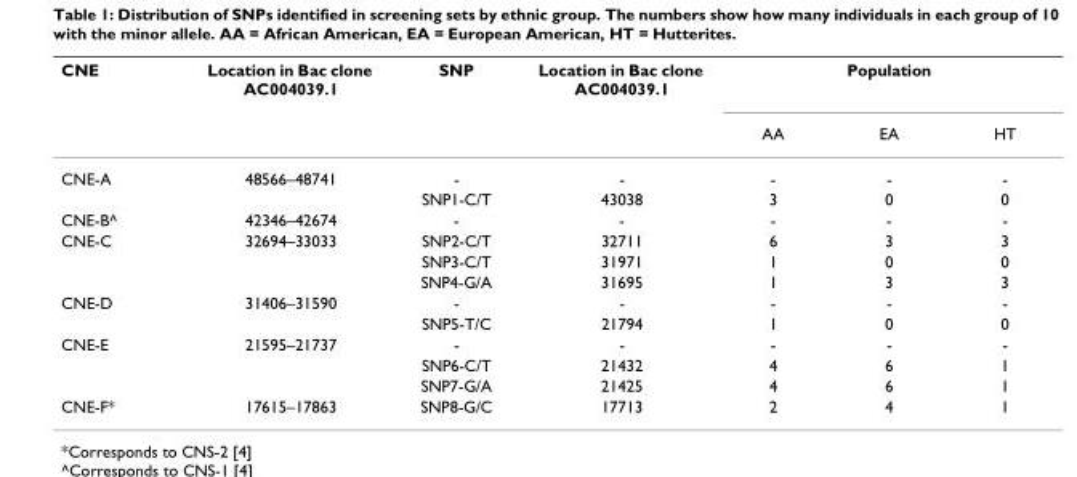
<table><thead><tr><td rowspan="2">CNE</td><td rowspan="2">Location in Bac clone AC004039.1</td><td rowspan="2">SNP</td><td rowspan="2">Location in Bac clone AC004039.1</td><td colspan="3">Population</td></tr><tr><td>AA</td><td>EA</td><td>HT</td></tr></thead><tbody><tr><td rowspan="2">CNE-A</td><td>48566–48741</td><td>-</td><td>-</td><td>-</td><td>-</td><td>-</td></tr><tr><td></td><td>SNP1-C/T</td><td>43038</td><td>3</td><td>0</td><td>0</td></tr><tr><td>CNE-B^</td><td>42346–42674</td><td>-</td><td>-</td><td>-</td><td>-</td><td>-</td></tr><tr><td rowspan="3">CNE-C</td><td>32694–33033</td><td>SNP2-C/T</td><td>32711</td><td>6</td><td>3</td><td>3</td></tr><tr><td></td><td>SNP3-C/T</td><td>31971</td><td>1</td><td>0</td><td>0</td></tr><tr><td></td><td>SNP4-G/A</td><td>31695</td><td>1</td><td>3</td><td>3</td></tr><tr><td rowspan="2">CNE-D</td><td>31406–31590</td><td>-</td><td>-</td><td>-</td><td>-</td><td>-</td></tr><tr><td></td><td>SNP5-T/C</td><td>21794</td><td>1</td><td>0</td><td>0</td></tr><tr><td rowspan="3">CNE-E</td><td>21595–21737</td><td>-</td><td>-</td><td>-</td><td>-</td><td>-</td></tr><tr><td></td><td>SNP6-C/T</td><td>21432</td><td>4</td><td>6</td><td>1</td></tr><tr><td></td><td>SNP7-G/A</td><td>21425</td><td>4</td><td>6</td><td>1</td></tr><tr><td>CNE-F*</td><td>17615–17863</td><td>SNP8-G/C</td><td>17713</td><td>2</td><td>4</td><td>1</td></tr></tbody></table>